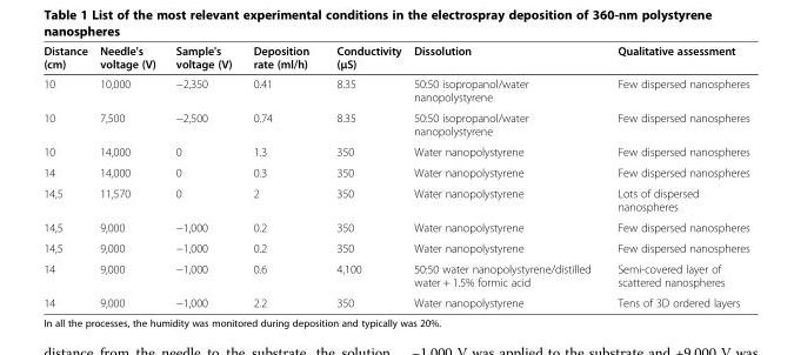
<table><thead><tr><td>Distance (cm)</td><td>Needle&#x27;s voltage (V)</td><td>Sample&#x27;s voltage (V)</td><td>Deposition rate (ml/h)</td><td>Conductivity (μS)</td><td>Dissolution</td><td>Qualitative assessment</td></tr></thead><tbody><tr><td>10</td><td>10,000</td><td>−2,350</td><td>0.41</td><td>8.35</td><td>50:50 isopropanol/water nanopolystyrene</td><td>Few dispersed nanospheres</td></tr><tr><td>10</td><td>7,500</td><td>−2,500</td><td>0.74</td><td>8.35</td><td>50:50 isopropanol/water nanopolystyrene</td><td>Few dispersed nanospheres</td></tr><tr><td>10</td><td>14,000</td><td>0</td><td>1.3</td><td>350</td><td>Water nanopolystyrene</td><td>Few dispersed nanospheres</td></tr><tr><td>14</td><td>14,000</td><td>0</td><td>0.3</td><td>350</td><td>Water nanopolystyrene</td><td>Few dispersed nanospheres</td></tr><tr><td>14,5</td><td>11,570</td><td>0</td><td>2</td><td>350</td><td>Water nanopolystyrene</td><td>Lots of dispersed nanospheres</td></tr><tr><td>14,5</td><td>9,000</td><td>−1,000</td><td>0.2</td><td>350</td><td>Water nanopolystyrene</td><td>Few dispersed nanospheres</td></tr><tr><td>14,5</td><td>9,000</td><td>−1,000</td><td>0.2</td><td>350</td><td>Water nanopolystyrene</td><td>Few dispersed nanospheres</td></tr><tr><td>14</td><td>9,000</td><td>−1,000</td><td>0.6</td><td>4,100</td><td>50:50 water nanopolystyrene/distilled water + 1.5% formic acid</td><td>Semi-covered layer of scattered nanospheres</td></tr><tr><td>14</td><td>9,000</td><td>−1,000</td><td>2.2</td><td>350</td><td>Water nanopolystyrene</td><td>Tens of 3D ordered layers</td></tr></tbody></table>